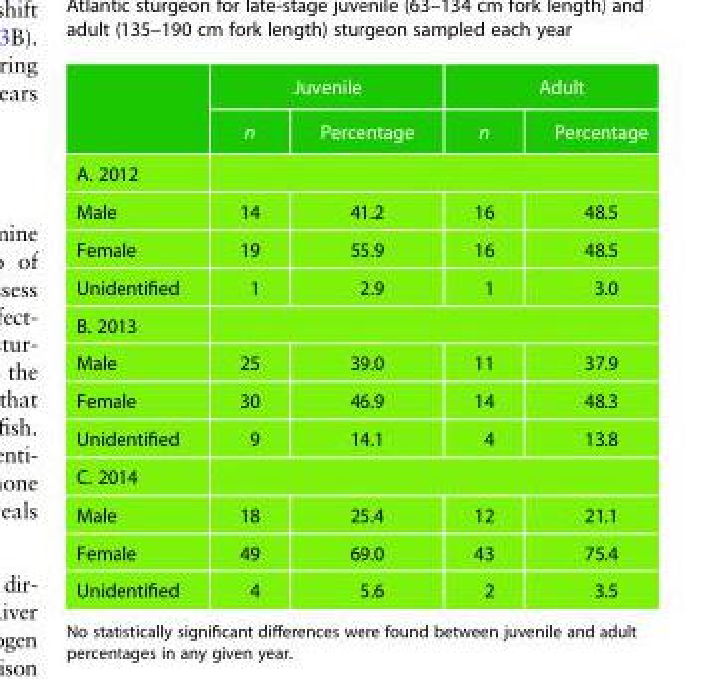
<table><thead><tr><td rowspan="2"></td><td colspan="2">Juvenile</td><td colspan="2">Adult</td></tr><tr><td>n</td><td>Percentage</td><td>n</td><td>Percentage</td></tr></thead><tbody><tr><td colspan="5">A. 2012</td></tr><tr><td>Male</td><td>14</td><td>41.2</td><td>16</td><td>48.5</td></tr><tr><td>Female</td><td>19</td><td>55.9</td><td>16</td><td>48.5</td></tr><tr><td>Unidentified</td><td>1</td><td>2.9</td><td>1</td><td>3.0</td></tr><tr><td colspan="5">B. 2013</td></tr><tr><td>Male</td><td>25</td><td>39.0</td><td>11</td><td>37.9</td></tr><tr><td>Female</td><td>30</td><td>46.9</td><td>14</td><td>48.3</td></tr><tr><td>Unidentified</td><td>9</td><td>14.1</td><td>4</td><td>13.8</td></tr><tr><td colspan="5">C. 2014</td></tr><tr><td>Male</td><td>18</td><td>25.4</td><td>12</td><td>21.1</td></tr><tr><td>Female</td><td>49</td><td>69.0</td><td>43</td><td>75.4</td></tr><tr><td>Unidentified</td><td>4</td><td>5.6</td><td>2</td><td>3.5</td></tr></tbody></table>